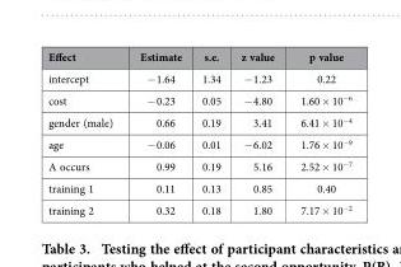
<table><thead><tr><td>Effect</td><td>Estimate</td><td>s.e.</td><td>z value</td><td>p value</td></tr></thead><tbody><tr><td>intercept</td><td>− 1.64</td><td>1.34</td><td>− 1.23</td><td>0.22</td></tr><tr><td>cost</td><td>− 0.23</td><td>0.05</td><td>− 4.80</td><td>1.60 × 10<sup>−6</sup></td></tr><tr><td>gender (male)</td><td>0.66</td><td>0.19</td><td>3.41</td><td>6.41 × 10<sup>−4</sup></td></tr><tr><td>age</td><td>− 0.06</td><td>0.01</td><td>− 6.02</td><td>1.76 × 10<sup>−9</sup></td></tr><tr><td>A occurs</td><td>0.99</td><td>0.19</td><td>5.16</td><td>2.52 × 10<sup>−7</sup></td></tr><tr><td>training 1</td><td>0.11</td><td>0.13</td><td>0.85</td><td>0.40</td></tr><tr><td>training 2</td><td>0.32</td><td>0.18</td><td>1.80</td><td>7.17 × 10<sup>−2</sup></td></tr></tbody></table>